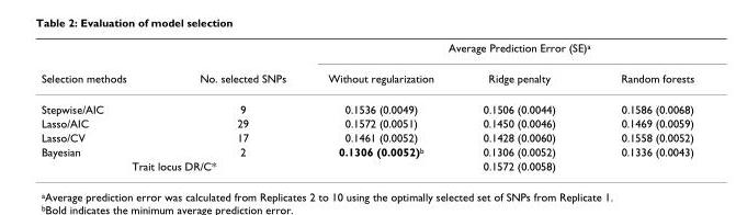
<table><thead><tr><td rowspan="2">Selection methods</td><td rowspan="2">No. selected SNPs</td><td colspan="3">Average Prediction Error (SE)<sup>a</sup></td></tr><tr><td>Without regularization</td><td>Ridge penalty</td><td>Random forests</td></tr></thead><tbody><tr><td>Stepwise/AIC</td><td>9</td><td>0.1536 (0.0049)</td><td>0.1506 (0.0044)</td><td>0.1586 (0.0068)</td></tr><tr><td>Lasso/AIC</td><td>29</td><td>0.1572 (0.0051)</td><td>0.1450 (0.0046)</td><td>0.1469 (0.0059)</td></tr><tr><td>Lasso/CV</td><td>17</td><td>0.1461 (0.0052)</td><td>0.1428 (0.0060)</td><td>0.1558 (0.0052)</td></tr><tr><td>Bayesian</td><td>2</td><td>0.1306 (0.0052)<sup>b</sup></td><td>0.1306 (0.0052)</td><td>0.1336 (0.0043)</td></tr><tr><td colspan="2">Trait locus DR/C*</td><td></td><td>0.1572 (0.0058)</td><td></td></tr></tbody></table>